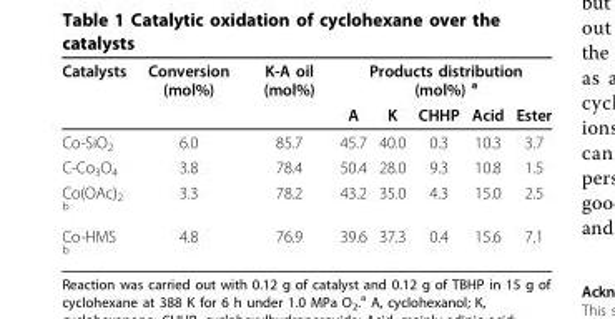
<table><thead><tr><td rowspan="2">Catalysts</td><td rowspan="2">Conversion (mol%)</td><td rowspan="2">K-A oil (mol%)</td><td colspan="5">Products distribution (mol%) <sup>a</sup></td></tr><tr><td>A</td><td>K</td><td>CHHP</td><td>Acid</td><td>Ester</td></tr></thead><tbody><tr><td>Co-SiO<sub>2</sub></td><td>6.0</td><td>85.7</td><td>45.7</td><td>40.0</td><td>0.3</td><td>10.3</td><td>3.7</td></tr><tr><td>C-Co<sub>3</sub>O<sub>4</sub></td><td>3.8</td><td>78.4</td><td>50.4</td><td>28.0</td><td>9.3</td><td>10.8</td><td>1.5</td></tr><tr><td>Co(OAc)<sub>2</sub> <sup>b</sup></td><td>3.3</td><td>78.2</td><td>43.2</td><td>35.0</td><td>4.3</td><td>15.0</td><td>2.5</td></tr><tr><td>Co-HMS <sup>b</sup></td><td>4.8</td><td>76.9</td><td>39.6</td><td>37.3</td><td>0.4</td><td>15.6</td><td>7.1</td></tr></tbody></table>